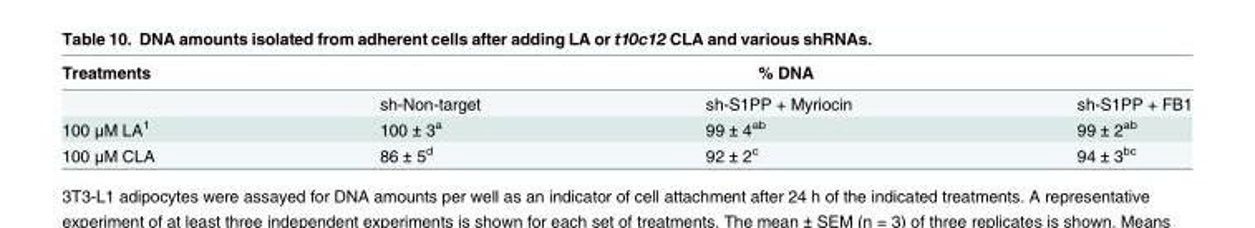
<table><thead><tr><td rowspan="2">Treatments</td><td colspan="3">% DNA</td></tr><tr><td>sh-Non-target</td><td>sh-S1PP + Myriocin</td><td>sh-S1PP + FB1</td></tr></thead><tbody><tr><td>100 μM LA<sup>1</sup></td><td>100 ± 3<sup>a</sup></td><td>99 ± 4<sup>ab</sup></td><td>99 ± 2<sup>ab</sup></td></tr><tr><td>100 μM CLA</td><td>86 ± 5<sup>d</sup></td><td>92 ± 2<sup>c</sup></td><td>94 ± 3<sup>bc</sup></td></tr></tbody></table>